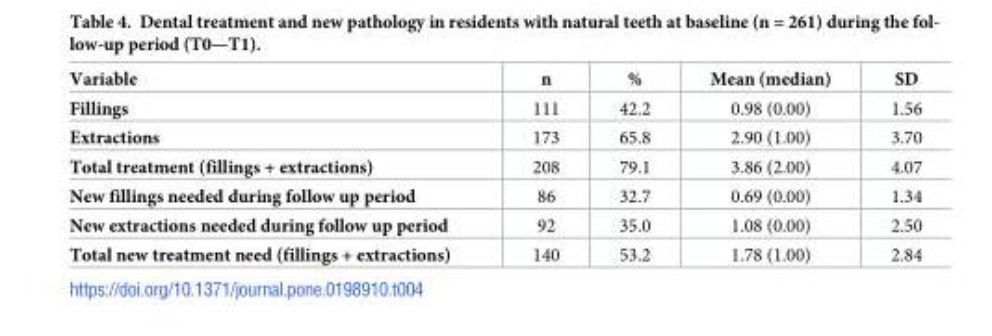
<table><thead><tr><td>Variable</td><td>n</td><td>%</td><td>Mean (median)</td><td>SD</td></tr></thead><tbody><tr><td>Fillings</td><td>111</td><td>42.2</td><td>0.98 (0.00)</td><td>1.56</td></tr><tr><td>Extractions</td><td>173</td><td>65.8</td><td>2.90 (1.00)</td><td>3.70</td></tr><tr><td>Total treatment (fillings + extractions)</td><td>208</td><td>79.1</td><td>3.86 (2.00)</td><td>4.07</td></tr><tr><td>New fillings needed during follow up period</td><td>86</td><td>32.7</td><td>0.69 (0.00)</td><td>1.34</td></tr><tr><td>New extractions needed during follow up period</td><td>92</td><td>35.0</td><td>1.08 (0.00)</td><td>2.50</td></tr><tr><td>Total new treatment need (fillings + extractions)</td><td>140</td><td>53.2</td><td>1.78 (1.00)</td><td>2.84</td></tr></tbody></table>